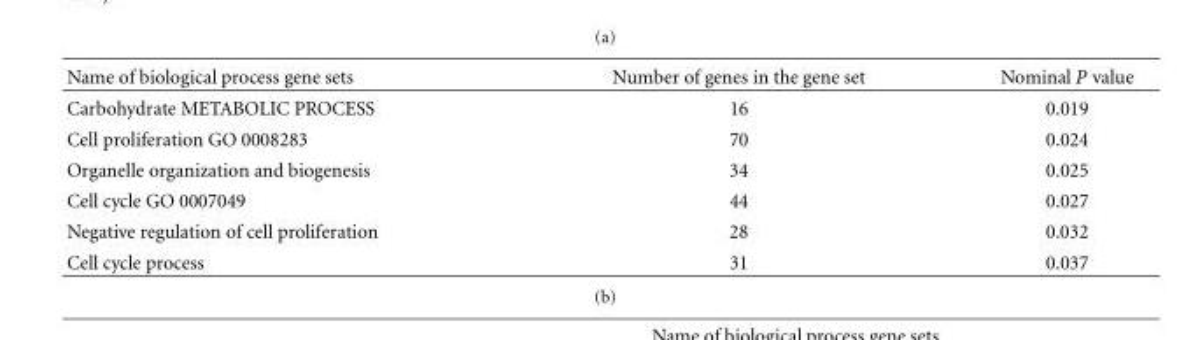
<table><thead><tr><td>Name of biological process gene sets</td><td>Number of genes in the gene set</td><td>Nominal P value</td></tr></thead><tbody><tr><td>Carbohydrate METABOLIC PROCESS</td><td>16</td><td>0.019</td></tr><tr><td>Cell proliferation GO 0008283</td><td>70</td><td>0.024</td></tr><tr><td>Organelle organization and biogenesis</td><td>34</td><td>0.025</td></tr><tr><td>Cell cycle GO 0007049</td><td>44</td><td>0.027</td></tr><tr><td>Negative regulation of cell proliferation</td><td>28</td><td>0.032</td></tr><tr><td>Cell cycle process</td><td>31</td><td>0.037</td></tr></tbody></table>